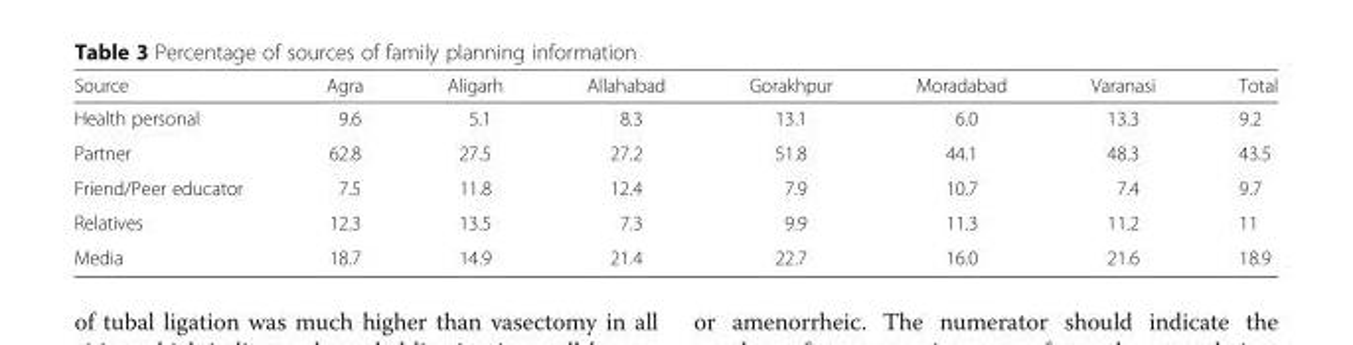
<table><thead><tr><td>Source</td><td>Agra</td><td>Aligarh</td><td>Allahabad</td><td>Gorakhpur</td><td>Moradabad</td><td>Varanasi</td><td>Total</td></tr></thead><tbody><tr><td>Health personal</td><td>9.6</td><td>5.1</td><td>8.3</td><td>13.1</td><td>6.0</td><td>13.3</td><td>9.2</td></tr><tr><td>Partner</td><td>62.8</td><td>27.5</td><td>27.2</td><td>51.8</td><td>44.1</td><td>48.3</td><td>43.5</td></tr><tr><td>Friend/Peer educator</td><td>7.5</td><td>11.8</td><td>12.4</td><td>7.9</td><td>10.7</td><td>7.4</td><td>9.7</td></tr><tr><td>Relatives</td><td>12.3</td><td>13.5</td><td>7.3</td><td>9.9</td><td>11.3</td><td>11.2</td><td>11</td></tr><tr><td>Media</td><td>18.7</td><td>14.9</td><td>21.4</td><td>22.7</td><td>16.0</td><td>21.6</td><td>18.9</td></tr></tbody></table>